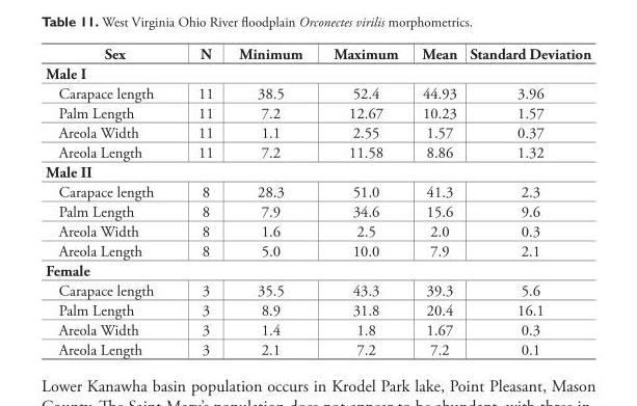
<table><thead><tr><td>Sex</td><td>N</td><td>Minimum</td><td>Maximum</td><td>Mean</td><td>Standard Deviation</td></tr></thead><tbody><tr><td colspan="6">Male I</td></tr><tr><td>Carapace length</td><td>11</td><td>38.5</td><td>52.4</td><td>44.93</td><td>3.96</td></tr><tr><td>Palm Length</td><td>11</td><td>7.2</td><td>12.67</td><td>10.23</td><td>1.57</td></tr><tr><td>Areola Width</td><td>11</td><td>1.1</td><td>2.55</td><td>1.57</td><td>0.37</td></tr><tr><td>Areola Length</td><td>11</td><td>7.2</td><td>11.58</td><td>8.86</td><td>1.32</td></tr><tr><td colspan="6">Male II</td></tr><tr><td>Carapace length</td><td>8</td><td>28.3</td><td>51.0</td><td>41.3</td><td>2.3</td></tr><tr><td>Palm Length</td><td>8</td><td>7.9</td><td>34.6</td><td>15.6</td><td>9.6</td></tr><tr><td>Areola Width</td><td>8</td><td>1.6</td><td>2.5</td><td>2.0</td><td>0.3</td></tr><tr><td>Areola Length</td><td>8</td><td>5.0</td><td>10.0</td><td>7.9</td><td>2.1</td></tr><tr><td colspan="6">Female</td></tr><tr><td>Carapace length</td><td>3</td><td>35.5</td><td>43.3</td><td>39.3</td><td>5.6</td></tr><tr><td>Palm Length</td><td>3</td><td>8.9</td><td>31.8</td><td>20.4</td><td>16.1</td></tr><tr><td>Areola Width</td><td>3</td><td>1.4</td><td>1.8</td><td>1.67</td><td>0.3</td></tr><tr><td>Areola Length</td><td>3</td><td>2.1</td><td>7.2</td><td>7.2</td><td>0.1</td></tr></tbody></table>